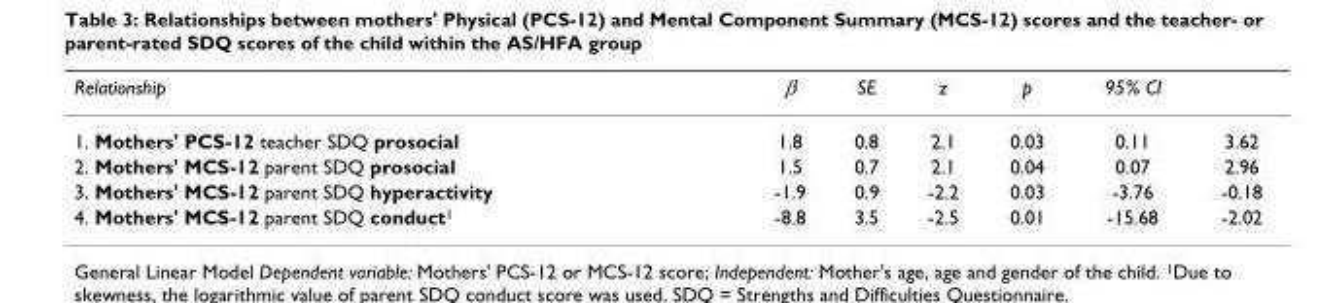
<table><thead><tr><td>Relationship</td><td>β</td><td>SE</td><td>z</td><td>p</td><td>95% CI</td><td></td></tr></thead><tbody><tr><td>1. Mothers&#x27; PCS-12 teacher SDQ prosocial</td><td>1.8</td><td>0.8</td><td>2.1</td><td>0.03</td><td>0.11</td><td>3.62</td></tr><tr><td>2. Mothers&#x27; MCS-12 parent SDQ prosocial</td><td>1.5</td><td>0.7</td><td>2.1</td><td>0.04</td><td>0.07</td><td>2.96</td></tr><tr><td>3. Mothers&#x27; MCS-12 parent SDQ hyperactivity</td><td>-1.9</td><td>0.9</td><td>-2.2</td><td>0.03</td><td>-3.76</td><td>-0.18</td></tr><tr><td>4. Mothers&#x27; MCS-12 parent SDQ conduct<sup>1</sup></td><td>-8.8</td><td>3.5</td><td>-2.5</td><td>0.01</td><td>-15.68</td><td>-2.02</td></tr></tbody></table>